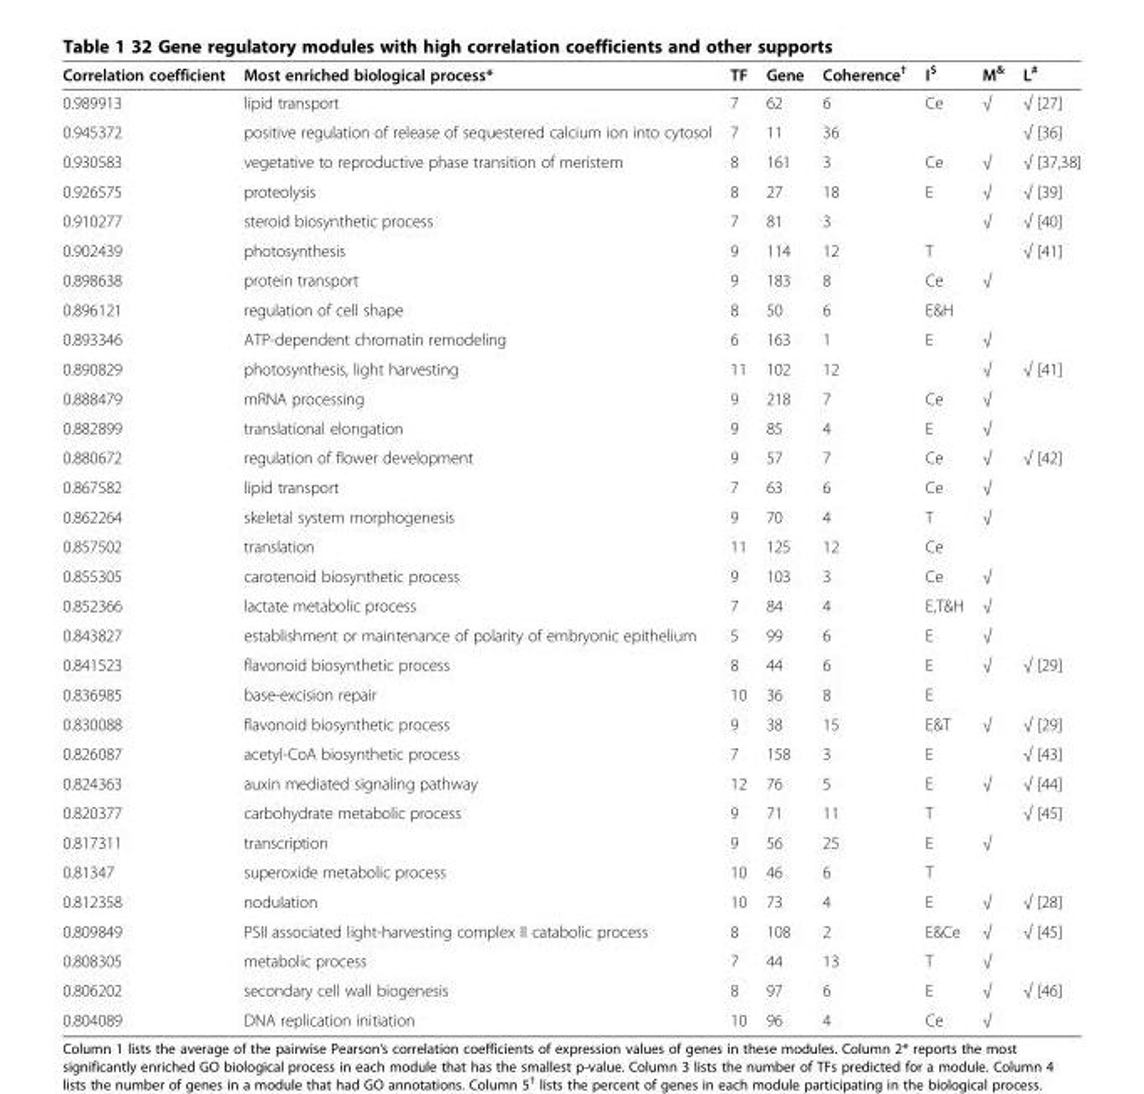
<table><thead><tr><td>Correlation coefficient</td><td>Most enriched biological process*</td><td>TF</td><td>Gene</td><td>Coherence<sup>†</sup></td><td>I<sup>$</sup></td><td>M<sup>&amp;</sup></td><td>L<sup>#</sup></td></tr></thead><tbody><tr><td>0.989913</td><td>lipid transport</td><td>7</td><td>62</td><td>6</td><td>Ce</td><td>√</td><td>√ [27]</td></tr><tr><td>0.945372</td><td>positive regulation of release of sequestered calcium ion into cytosol</td><td>7</td><td>11</td><td>36</td><td></td><td></td><td>√ [36]</td></tr><tr><td>0.930583</td><td>vegetative to reproductive phase transition of meristem</td><td>8</td><td>161</td><td>3</td><td>Ce</td><td>√</td><td>√ [37,38]</td></tr><tr><td>0.926575</td><td>proteolysis</td><td>8</td><td>27</td><td>18</td><td>E</td><td>√</td><td>√ [39]</td></tr><tr><td>0.910277</td><td>steroid biosynthetic process</td><td>7</td><td>81</td><td>3</td><td></td><td>√</td><td>√ [40]</td></tr><tr><td>0.902439</td><td>photosynthesis</td><td>9</td><td>114</td><td>12</td><td>T</td><td></td><td>√ [41]</td></tr><tr><td>0.898638</td><td>protein transport</td><td>9</td><td>183</td><td>8</td><td>Ce</td><td>√</td><td></td></tr><tr><td>0.896121</td><td>regulation of cell shape</td><td>8</td><td>50</td><td>6</td><td>E&amp;H</td><td></td><td></td></tr><tr><td>0.893346</td><td>ATP-dependent chromatin remodeling</td><td>6</td><td>163</td><td>1</td><td>E</td><td>√</td><td></td></tr><tr><td>0.890829</td><td>photosynthesis, light harvesting</td><td>11</td><td>102</td><td>12</td><td></td><td>√</td><td>√ [41]</td></tr><tr><td>0.888479</td><td>mRNA processing</td><td>9</td><td>218</td><td>7</td><td>Ce</td><td>√</td><td></td></tr><tr><td>0.882899</td><td>translational elongation</td><td>9</td><td>85</td><td>4</td><td>E</td><td>√</td><td></td></tr><tr><td>0.880672</td><td>regulation of flower development</td><td>9</td><td>57</td><td>7</td><td>Ce</td><td>√</td><td>√ [42]</td></tr><tr><td>0.867582</td><td>lipid transport</td><td>7</td><td>63</td><td>6</td><td>Ce</td><td>√</td><td></td></tr><tr><td>0.862264</td><td>skeletal system morphogenesis</td><td>9</td><td>70</td><td>4</td><td>T</td><td>√</td><td></td></tr><tr><td>0.857502</td><td>translation</td><td>11</td><td>125</td><td>12</td><td>Ce</td><td></td><td></td></tr><tr><td>0.855305</td><td>carotenoid biosynthetic process</td><td>9</td><td>103</td><td>3</td><td>Ce</td><td>√</td><td></td></tr><tr><td>0.852366</td><td>lactate metabolic process</td><td>7</td><td>84</td><td>4</td><td>E,T&amp;H</td><td>√</td><td></td></tr><tr><td>0.843827</td><td>establishment or maintenance of polarity of embryonic epithelium</td><td>5</td><td>99</td><td>6</td><td>E</td><td>√</td><td></td></tr><tr><td>0.841523</td><td>flavonoid biosynthetic process</td><td>8</td><td>44</td><td>6</td><td>E</td><td>√</td><td>√ [29]</td></tr><tr><td>0.836985</td><td>base-excision repair</td><td>10</td><td>36</td><td>8</td><td>E</td><td></td><td></td></tr><tr><td>0.830088</td><td>flavonoid biosynthetic process</td><td>9</td><td>38</td><td>15</td><td>E&amp;T</td><td>√</td><td>√ [29]</td></tr><tr><td>0.826087</td><td>acetyl-CoA biosynthetic process</td><td>7</td><td>158</td><td>3</td><td>E</td><td></td><td>√ [43]</td></tr><tr><td>0.824363</td><td>auxin mediated signaling pathway</td><td>12</td><td>76</td><td>5</td><td>E</td><td>√</td><td>√ [44]</td></tr><tr><td>0.820377</td><td>carbohydrate metabolic process</td><td>9</td><td>71</td><td>11</td><td>T</td><td></td><td>√ [45]</td></tr><tr><td>0.817311</td><td>transcription</td><td>9</td><td>56</td><td>25</td><td>E</td><td>√</td><td></td></tr><tr><td>0.81347</td><td>superoxide metabolic process</td><td>10</td><td>46</td><td>6</td><td>T</td><td></td><td></td></tr><tr><td>0.812358</td><td>nodulation</td><td>10</td><td>73</td><td>4</td><td>E</td><td>√</td><td>√ [28]</td></tr><tr><td>0.809849</td><td>PSII associated light-harvesting complex II catabolic process</td><td>8</td><td>108</td><td>2</td><td>E&amp;Ce</td><td>√</td><td>√ [45]</td></tr><tr><td>0.808305</td><td>metabolic process</td><td>7</td><td>44</td><td>13</td><td>T</td><td>√</td><td></td></tr><tr><td>0.806202</td><td>secondary cell wall biogenesis</td><td>8</td><td>97</td><td>6</td><td>E</td><td>√</td><td>√ [46]</td></tr><tr><td>0.804089</td><td>DNA replication initiation</td><td>10</td><td>96</td><td>4</td><td>Ce</td><td>√</td><td></td></tr></tbody></table>